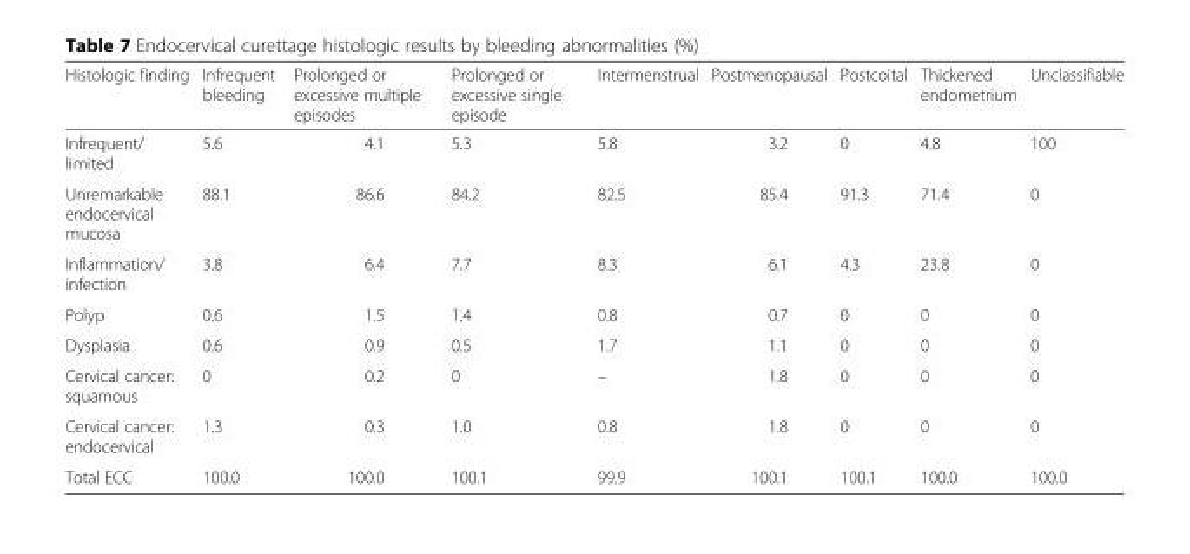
<table><thead><tr><td>Histologic finding</td><td>Infrequent bleeding</td><td>Prolonged or excessive multiple episodes</td><td>Prolonged or excessive single episode</td><td>Intermenstrual</td><td>Postmenopausal</td><td>Postcoital</td><td>Thickened endometrium</td><td>Unclassifiable</td></tr></thead><tbody><tr><td>Infrequent/ limited</td><td>5.6</td><td>4.1</td><td>5.3</td><td>5.8</td><td>3.2</td><td>0</td><td>4.8</td><td>100</td></tr><tr><td>Unremarkable endocervical mucosa</td><td>88.1</td><td>86.6</td><td>84.2</td><td>82.5</td><td>85.4</td><td>91.3</td><td>71.4</td><td>0</td></tr><tr><td>Inflammation/ infection</td><td>3.8</td><td>6.4</td><td>7.7</td><td>8.3</td><td>6.1</td><td>4.3</td><td>23.8</td><td>0</td></tr><tr><td>Polyp</td><td>0.6</td><td>1.5</td><td>1.4</td><td>0.8</td><td>0.7</td><td>0</td><td>0</td><td>0</td></tr><tr><td>Dysplasia</td><td>0.6</td><td>0.9</td><td>0.5</td><td>1.7</td><td>1.1</td><td>0</td><td>0</td><td>0</td></tr><tr><td>Cervical cancer: squamous</td><td>0</td><td>0.2</td><td>0</td><td>–</td><td>1.8</td><td>0</td><td>0</td><td>0</td></tr><tr><td>Cervical cancer: endocervical</td><td>1.3</td><td>0.3</td><td>1.0</td><td>0.8</td><td>1.8</td><td>0</td><td>0</td><td>0</td></tr><tr><td>Total ECC</td><td>100.0</td><td>100.0</td><td>100.1</td><td>99.9</td><td>100.1</td><td>100.1</td><td>100.0</td><td>100.0</td></tr></tbody></table>